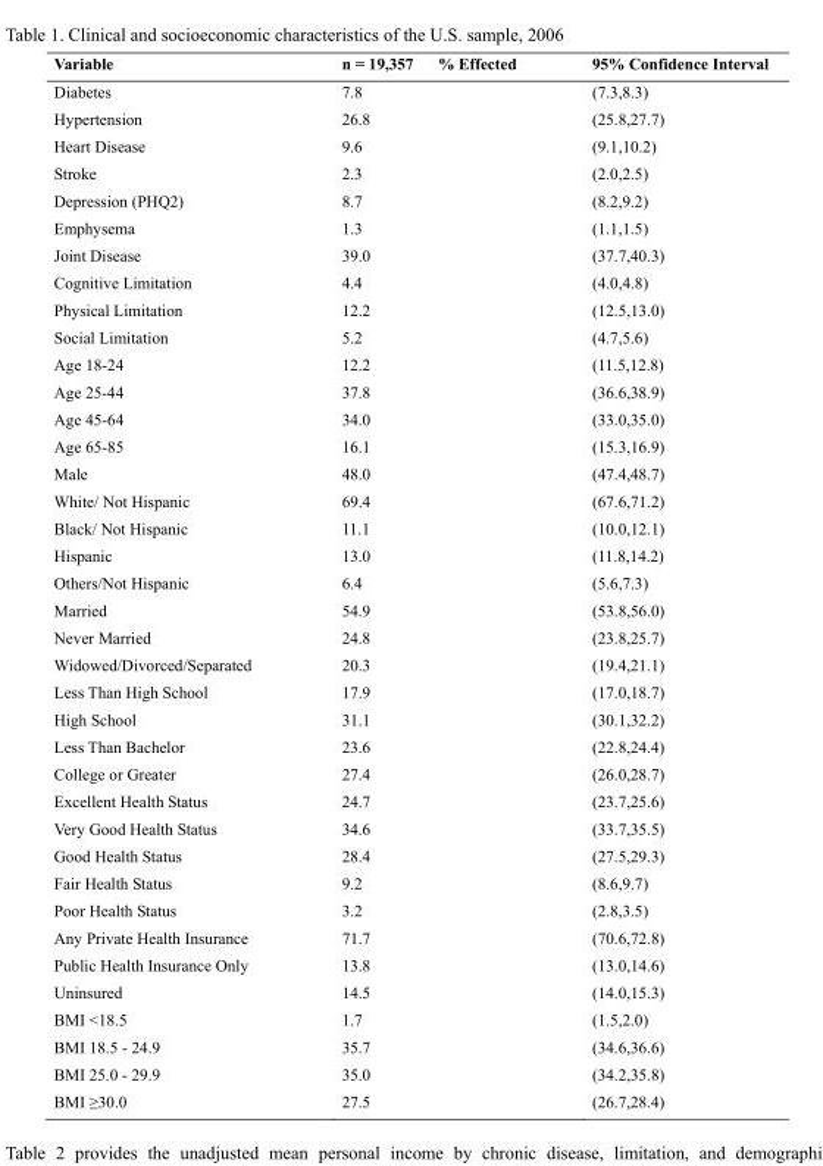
<table><thead><tr><td>Variable</td><td>n = 19,357 % Effected</td><td>95% Confidence Interval</td></tr></thead><tbody><tr><td>Diabetes</td><td>7.8</td><td>(7.3,8.3)</td></tr><tr><td>Hypertension</td><td>26.8</td><td>(25.8,27.7)</td></tr><tr><td>Heart Disease</td><td>9.6</td><td>(9.1,10.2)</td></tr><tr><td>Stroke</td><td>2.3</td><td>(2.0,2.5)</td></tr><tr><td>Depression (PHQ2)</td><td>8.7</td><td>(8.2,9.2)</td></tr><tr><td>Emphysema</td><td>1.3</td><td>(1.1,1.5)</td></tr><tr><td>Joint Disease</td><td>39.0</td><td>(37.7,40.3)</td></tr><tr><td>Cognitive Limitation</td><td>4.4</td><td>(4.0,4.8)</td></tr><tr><td>Physical Limitation</td><td>12.2</td><td>(12.5,13.0)</td></tr><tr><td>Social Limitation</td><td>5.2</td><td>(4.7,5.6)</td></tr><tr><td>Age 18-24</td><td>12.2</td><td>(11.5,12.8)</td></tr><tr><td>Age 25-44</td><td>37.8</td><td>(36.6,38.9)</td></tr><tr><td>Age 45-64</td><td>34.0</td><td>(33.0,35.0)</td></tr><tr><td>Age 65-85</td><td>16.1</td><td>(15.3,16.9)</td></tr><tr><td>Male</td><td>48.0</td><td>(47.4,48.7)</td></tr><tr><td>White/ Not Hispanic</td><td>69.4</td><td>(67.6,71.2)</td></tr><tr><td>Black/ Not Hispanic</td><td>11.1</td><td>(10.0,12.1)</td></tr><tr><td>Hispanic</td><td>13.0</td><td>(11.8,14.2)</td></tr><tr><td>Others/Not Hispanic</td><td>6.4</td><td>(5.6,7.3)</td></tr><tr><td>Married</td><td>54.9</td><td>(53.8,56.0)</td></tr><tr><td>Never Married</td><td>24.8</td><td>(23.8,25.7)</td></tr><tr><td>Widowed/Divorced/Separated</td><td>20.3</td><td>(19.4,21.1)</td></tr><tr><td>Less Than High School</td><td>17.9</td><td>(17.0,18.7)</td></tr><tr><td>High School</td><td>31.1</td><td>(30.1,32.2)</td></tr><tr><td>Less Than Bachelor</td><td>23.6</td><td>(22.8,24.4)</td></tr><tr><td>College or Greater</td><td>27.4</td><td>(26.0,28.7)</td></tr><tr><td>Excellent Health Status</td><td>24.7</td><td>(23.7,25.6)</td></tr><tr><td>Very Good Health Status</td><td>34.6</td><td>(33.7,35.5)</td></tr><tr><td>Good Health Status</td><td>28.4</td><td>(27.5,29.3)</td></tr><tr><td>Fair Health Status</td><td>9.2</td><td>(8.6,9.7)</td></tr><tr><td>Poor Health Status</td><td>3.2</td><td>(2.8,3.5)</td></tr><tr><td>Any Private Health Insurance</td><td>71.7</td><td>(70.6,72.8)</td></tr><tr><td>Public Health Insurance Only</td><td>13.8</td><td>(13.0,14.6)</td></tr><tr><td>Uninsured</td><td>14.5</td><td>(14.0,15.3)</td></tr><tr><td>BMI &lt;18.5</td><td>1.7</td><td>(1.5,2.0)</td></tr><tr><td>BMI 18.5 - 24.9</td><td>35.7</td><td>(34.6,36.6)</td></tr><tr><td>BMI 25.0 - 29.9</td><td>35.0</td><td>(34.2,35.8)</td></tr><tr><td>BMI ≥30.0</td><td>27.5</td><td>(26.7,28.4)</td></tr></tbody></table>